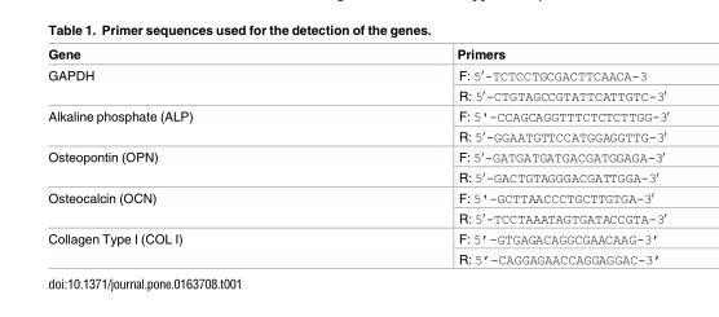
<table><thead><tr><td>Gene</td><td>Primers</td></tr></thead><tbody><tr><td rowspan="2">GAPDH</td><td>F: 5′-TCTCCTGCGACTTCAACA-3</td></tr><tr><td>R: 5′-CTGTAGCCGTATTCATTGTC-3′</td></tr><tr><td rowspan="2">Alkaline phosphate (ALP)</td><td>F: 5&#x27;-CCAGCAGGTTTCTCTCTTGG-3′</td></tr><tr><td>R: 5′-GGAATGTTCCATGGAGGTTG-3′</td></tr><tr><td rowspan="2">Osteopontin (OPN)</td><td>F: 5′-GATGATGATGACGATGGAGA-3′</td></tr><tr><td>R: 5′-GACTGTAGGGACGATTGGA-3′</td></tr><tr><td rowspan="2">Osteocalcin (OCN)</td><td>F: 5&#x27;-GCTTAACCCTGCTTGTGA-3′</td></tr><tr><td>R: 5′-TCCTAAATAGTGATACCGTA-3′</td></tr><tr><td rowspan="2">Collagen Type I (COL I)</td><td>F: 5’-GTGAGACAGGCGAACAAG-3’</td></tr><tr><td>R: 5’-CAGGAGAACCAGGAGGAC-3’</td></tr></tbody></table>